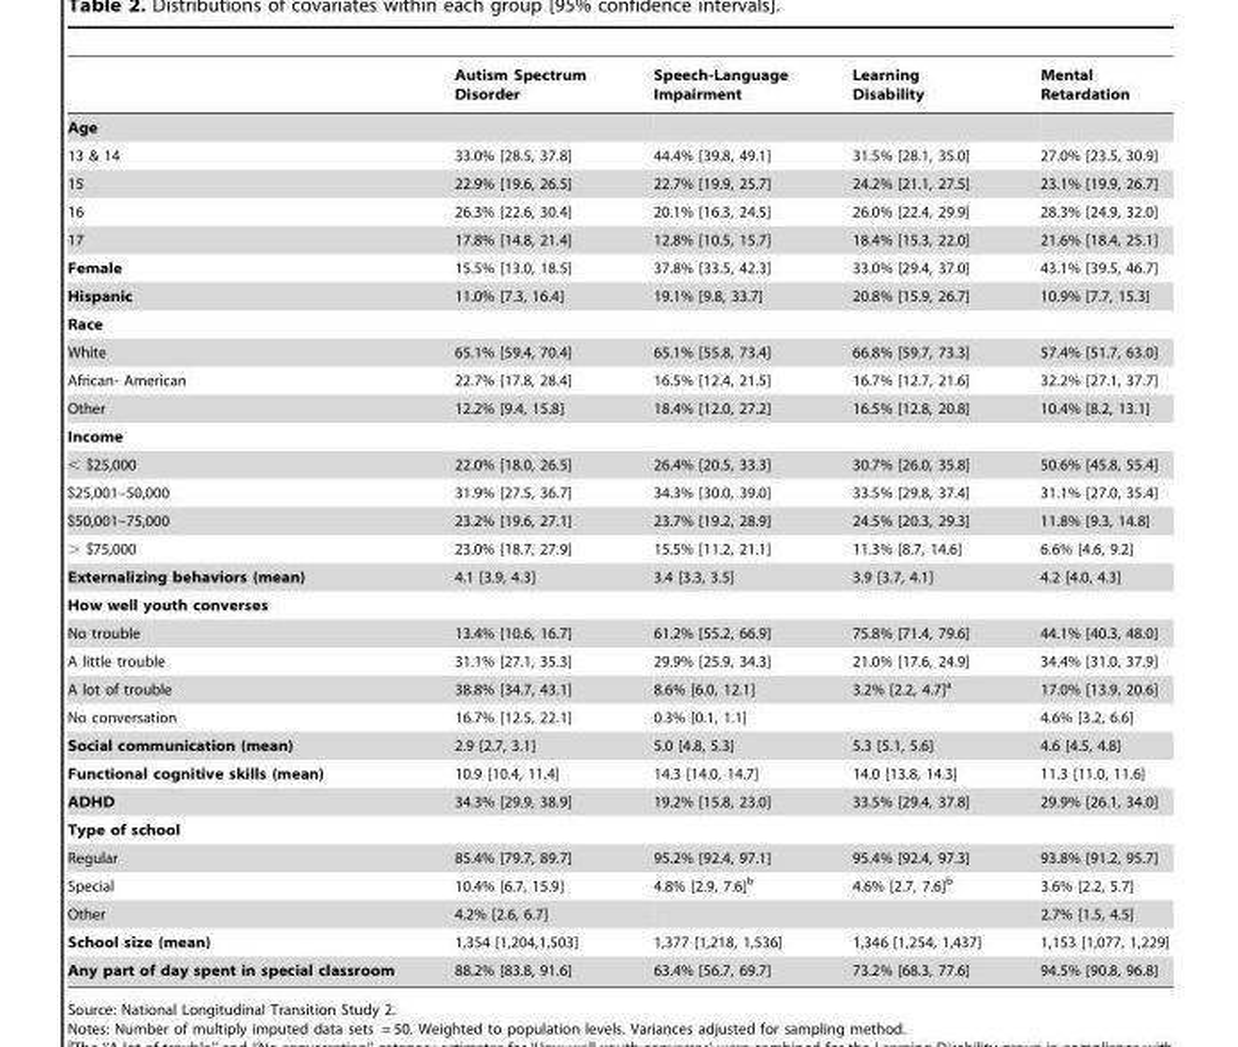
<table><thead><tr><td></td><td>Autism Spectrum Disorder</td><td>Speech-Language Impairment</td><td>Learning Disability</td><td>Mental Retardation</td></tr></thead><tbody><tr><td colspan="5">Age</td></tr><tr><td>13 &amp; 14</td><td>33.0% [28.5, 37.8]</td><td>44.4% [39.8, 49.1]</td><td>31.5% [28.1, 35.0]</td><td>27.0% [23.5, 30.9]</td></tr><tr><td>15</td><td>22.9% [19.6, 26.5]</td><td>22.7% [19.9, 25.7]</td><td>24.2% [21.1, 27.5]</td><td>23.1% [19.9, 26.7]</td></tr><tr><td>16</td><td>26.3% [22.6, 30.4]</td><td>20.1% [16.3, 24.5]</td><td>26.0% [22.4, 29.9]</td><td>28.3% [24.9, 32.0]</td></tr><tr><td>17</td><td>17.8% [14.8, 21.4]</td><td>12.8% [10.5, 15.7]</td><td>18.4% [15.3, 22.0]</td><td>21.6% [18.4, 25.1]</td></tr><tr><td>Female</td><td>15.5% [13.0, 18.5]</td><td>37.8% [33.5, 42.3]</td><td>33.0% [29.4, 37.0]</td><td>43.1% [39.5, 46.7]</td></tr><tr><td>Hispanic</td><td>11.0% [7.3, 16.4]</td><td>19.1% [9.8, 33.7]</td><td>20.8% [15.9, 26.7]</td><td>10.9% [7.7, 15.3]</td></tr><tr><td colspan="5">Race</td></tr><tr><td>White</td><td>65.1% [59.4, 70.4]</td><td>65.1% [55.8, 73.4]</td><td>66.8% [59.7, 73.3]</td><td>57.4% [51.7, 63.0]</td></tr><tr><td>African- American</td><td>22.7% [17.8, 28.4]</td><td>16.5% [12.4, 21.5]</td><td>16.7% [12.7, 21.6]</td><td>32.2% [27.1, 37.7]</td></tr><tr><td>Other</td><td>12.2% [9.4, 15.8]</td><td>18.4% [12.0, 27.2]</td><td>16.5% [12.8, 20.8]</td><td>10.4% [8.2, 13.1]</td></tr><tr><td colspan="5">Income</td></tr><tr><td>&lt; $25,000</td><td>22.0% [18.0, 26.5]</td><td>26.4% [20.5, 33.3]</td><td>30.7% [26.0, 35.8]</td><td>50.6% [45.8, 55.4]</td></tr><tr><td>$25,001–50,000</td><td>31.9% [27.5, 36.7]</td><td>34.3% [30.0, 39.0]</td><td>33.5% [29.8, 37.4]</td><td>31.1% [27.0, 35.4]</td></tr><tr><td>$50,001–75,000</td><td>23.2% [19.6, 27.1]</td><td>23.7% [19.2, 28.9]</td><td>24.5% [20.3, 29.3]</td><td>11.8% [9.3, 14.8]</td></tr><tr><td>&gt; $75,000</td><td>23.0% [18.7, 27.9]</td><td>15.5% [11.2, 21.1]</td><td>11.3% [8.7, 14.6]</td><td>6.6% [4.6, 9.2]</td></tr><tr><td>Externalizing behaviors (mean)</td><td>4.1 [3.9, 4.3]</td><td>3.4 [3.3, 3.5]</td><td>3.9 [3.7, 4.1]</td><td>4.2 [4.0, 4.3]</td></tr><tr><td colspan="5">How well youth converses</td></tr><tr><td>No trouble</td><td>13.4% [10.6, 16.7]</td><td>61.2% [55.2, 66.9]</td><td>75.8% [71.4, 79.6]</td><td>44.1% [40.3, 48.0]</td></tr><tr><td>A little trouble</td><td>31.1% [27.1, 35.3]</td><td>29.9% [25.9, 34.3]</td><td>21.0% [17.6, 24.9]</td><td>34.4% [31.0, 37.9]</td></tr><tr><td>A lot of trouble</td><td>38.8% [34.7, 43.1]</td><td>8.6% [6.0, 12.1]</td><td>3.2% [2.2, 4.7]<sup>a</sup></td><td>17.0% [13.9, 20.6]</td></tr><tr><td>No conversation</td><td>16.7% [12.5, 22.1]</td><td>0.3% [0.1, 1.1]</td><td></td><td>4.6% [3.2, 6.6]</td></tr><tr><td>Social communication (mean)</td><td>2.9 [2.7, 3.1]</td><td>5.0 [4.8, 5.3]</td><td>5.3 [5.1, 5.6]</td><td>4.6 [4.5, 4.8]</td></tr><tr><td>Functional cognitive skills (mean)</td><td>10.9 [10.4, 11.4]</td><td>14.3 [14.0, 14.7]</td><td>14.0 [13.8, 14.3]</td><td>11.3 [11.0, 11.6]</td></tr><tr><td>ADHD</td><td>34.3% [29.9, 38.9]</td><td>19.2% [15.8, 23.0]</td><td>33.5% [29.4, 37.8]</td><td>29.9% [26.1, 34.0]</td></tr><tr><td colspan="5">Type of school</td></tr><tr><td>Regular</td><td>85.4% [79.7, 89.7]</td><td>95.2% [92.4, 97.1]</td><td>95.4% [92.4, 97.3]</td><td>93.8% [91.2, 95.7]</td></tr><tr><td>Special</td><td>10.4% [6.7, 15.9]</td><td>4.8% [2.9, 7.6]<sup>b</sup></td><td>4.6% [2.7, 7.6]<sup>b</sup></td><td>3.6% [2.2, 5.7]</td></tr><tr><td>Other</td><td>4.2% [2.6, 6.7]</td><td></td><td></td><td>2.7% [1.5, 4.5]</td></tr><tr><td>School size (mean)</td><td>1,354 [1,204,1,503]</td><td>1,377 [1,218, 1,536]</td><td>1,346 [1,254, 1,437]</td><td>1,153 [1,077, 1,229]</td></tr><tr><td>Any part of day spent in special classroom</td><td>88.2% [83.8, 91.6]</td><td>63.4% [56.7, 69.7]</td><td>73.2% [68.3, 77.6]</td><td>94.5% [90.8, 96.8]</td></tr></tbody></table>